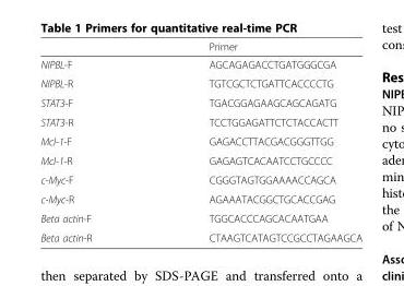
<table><thead><tr><td></td><td>Primer</td></tr></thead><tbody><tr><td>NIPBL-F</td><td>AGCAGAGACCTGATGGGCGA</td></tr><tr><td>NIPBL-R</td><td>TGTCGCTCTGATTCACCCCTG</td></tr><tr><td>STAT3-F</td><td>TGACGGAGAAGCAGCAGATG</td></tr><tr><td>STAT3-R</td><td>TCCTGGAGATTCTCTACCACTT</td></tr><tr><td>Mcl-1-F</td><td>GAGACCTTACGACGGGTTGG</td></tr><tr><td>Mcl-1-R</td><td>GAGAGTCACAATCCTGCCCC</td></tr><tr><td>c-Myc-F</td><td>CGGGTAGTGGAAAACCAGCA</td></tr><tr><td>c-Myc-R</td><td>AGAAATACGGCTGCACCGAG</td></tr><tr><td>Beta actin-F</td><td>TGGCACCCAGCACAATGAA</td></tr><tr><td>Beta actin-R</td><td>CTAAGTCATAGTCCGCCTAGAAGCA</td></tr></tbody></table>